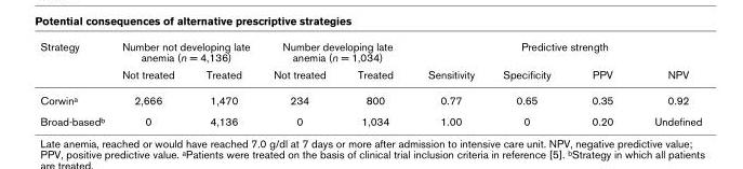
<table><thead><tr><td rowspan="2">Strategy</td><td colspan="2">Number not developing late anemia (n = 4,136)</td><td colspan="2">Number developing late anemia (n = 1,034)</td><td colspan="4">Predictive strength</td></tr><tr><td>Not treated</td><td>Treated</td><td>Not treated</td><td>Treated</td><td>Sensitivity</td><td>Specificity</td><td>PPV</td><td>NPV</td></tr></thead><tbody><tr><td>Corwina</td><td>2,666</td><td>1,470</td><td>234</td><td>800</td><td>0.77</td><td>0.65</td><td>0.35</td><td>0.92</td></tr><tr><td>Broad-basedb</td><td>0</td><td>4,136</td><td>0</td><td>1,034</td><td>1.00</td><td>0</td><td>0.20</td><td>Undefined</td></tr></tbody></table>